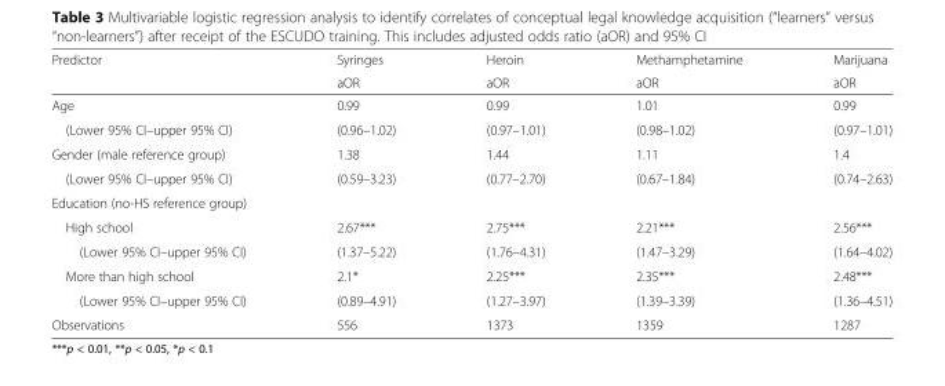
<table><thead><tr><td rowspan="2">Predictor</td><td rowspan="2">Syringes aOR</td><td rowspan="2">Heroin aOR</td><td rowspan="2">Methamphetamine aOR</td><td rowspan="2">Marijuana aOR</td></tr><tr></tr></thead><tbody><tr><td>Age</td><td>0.99</td><td>0.99</td><td>1.01</td><td>0.99</td></tr><tr><td>(Lower 95% CI–upper 95% CI)</td><td>(0.96–1.02)</td><td>(0.97–1.01)</td><td>(0.98–1.02)</td><td>(0.97–1.01)</td></tr><tr><td>Gender (male reference group)</td><td>1.38</td><td>1.44</td><td>1.11</td><td>1.4</td></tr><tr><td>(Lower 95% CI–upper 95% CI)</td><td>(0.59–3.23)</td><td>(0.77–2.70)</td><td>(0.67–1.84)</td><td>(0.74–2.63)</td></tr><tr><td colspan="5">Education (no-HS reference group)</td></tr><tr><td>High school</td><td>2.67***</td><td>2.75***</td><td>2.21***</td><td>2.56***</td></tr><tr><td>(Lower 95% CI–upper 95% CI)</td><td>(1.37–5.22)</td><td>(1.76–4.31)</td><td>(1.47–3.29)</td><td>(1.64–4.02)</td></tr><tr><td>More than high school</td><td>2.1*</td><td>2.25***</td><td>2.35***</td><td>2.48***</td></tr><tr><td>(Lower 95% CI–upper 95% CI)</td><td>(0.89–4.91)</td><td>(1.27–3.97)</td><td>(1.39–3.39)</td><td>(1.36–4.51)</td></tr><tr><td>Observations</td><td>556</td><td>1373</td><td>1359</td><td>1287</td></tr></tbody></table>